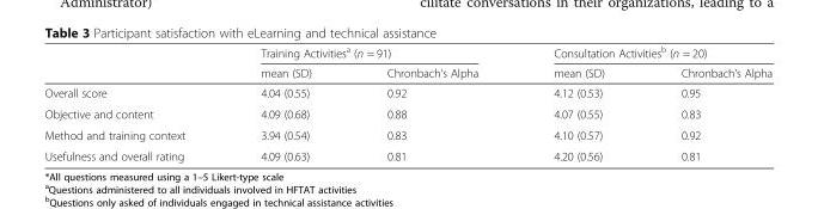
<table><thead><tr><td rowspan="2"></td><td colspan="2">Training Activities<sup>a</sup> (n = 91)</td><td colspan="2">Consultation Activities<sup>b</sup> (n = 20)</td></tr><tr><td>mean (SD)</td><td>Chronbach’s Alpha</td><td>mean (SD)</td><td>Chronbach’s Alpha</td></tr></thead><tbody><tr><td>Overall score</td><td>4.04 (0.55)</td><td>0.92</td><td>4.12 (0.53)</td><td>0.95</td></tr><tr><td>Objective and content</td><td>4.09 (0.68)</td><td>0.88</td><td>4.07 (0.55)</td><td>0.83</td></tr><tr><td>Method and training context</td><td>3.94 (0.54)</td><td>0.83</td><td>4.10 (0.57)</td><td>0.92</td></tr><tr><td>Usefulness and overall rating</td><td>4.09 (0.63)</td><td>0.81</td><td>4.20 (0.56)</td><td>0.81</td></tr></tbody></table>